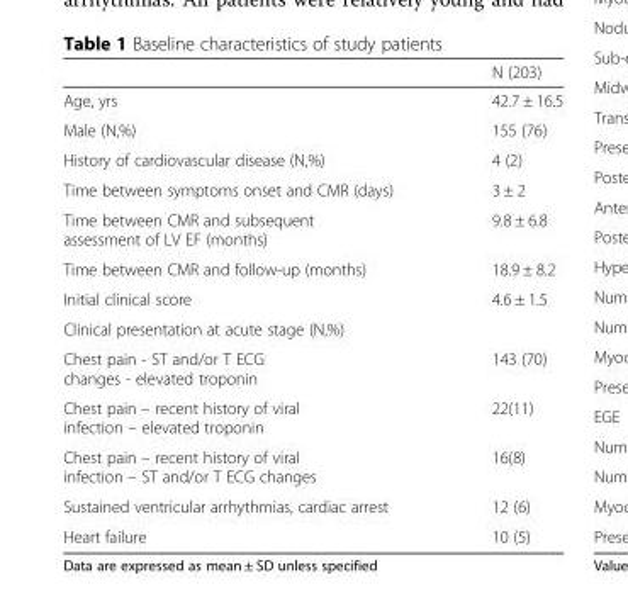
<table><thead><tr><td></td><td>N (203)</td></tr></thead><tbody><tr><td>Age, yrs</td><td>42.7 ± 16.5</td></tr><tr><td>Male (N,%)</td><td>155 (76)</td></tr><tr><td>History of cardiovascular disease (N,%)</td><td>4 (2)</td></tr><tr><td>Time between symptoms onset and CMR (days)</td><td>3 ± 2</td></tr><tr><td>Time between CMR and subsequent assessment of LV EF (months)</td><td>9.8 ± 6.8</td></tr><tr><td>Time between CMR and follow-up (months)</td><td>18.9 ± 8.2</td></tr><tr><td>Initial clinical score</td><td>4.6 ± 1.5</td></tr><tr><td colspan="2">Clinical presentation at acute stage (N,%)</td></tr><tr><td>Chest pain - ST and/or T ECG changes - elevated troponin</td><td>143 (70)</td></tr><tr><td>Chest pain – recent history of viral infection – elevated troponin</td><td>22(11)</td></tr><tr><td>Chest pain – recent history of viral infection – ST and/or T ECG changes</td><td>16(8)</td></tr><tr><td>Sustained ventricular arrhythmias, cardiac arrest</td><td>12 (6)</td></tr><tr><td>Heart failure</td><td>10 (5)</td></tr></tbody></table>